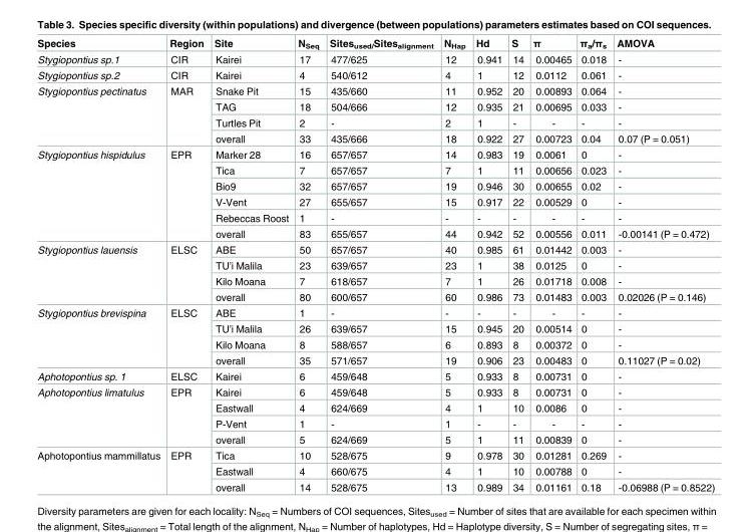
<table><thead><tr><td>Species</td><td>Region</td><td>Site</td><td>N<sub>Seq</sub></td><td>Sites<sub>used/</sub>Sites<sub>alignment</sub></td><td>N<sub>Hap</sub></td><td>Hd</td><td>S</td><td>π</td><td>π<sub>a</sub>/π<sub>s</sub></td><td>AMOVA</td></tr></thead><tbody><tr><td>Stygiopontius sp.1</td><td>CIR</td><td>Kairei</td><td>17</td><td>477/625</td><td>12</td><td>0.941</td><td>14</td><td>0.00465</td><td>0.018</td><td>-</td></tr><tr><td>Stygiopontius sp.2</td><td>CIR</td><td>Kairei</td><td>4</td><td>540/612</td><td>4</td><td>1</td><td>12</td><td>0.0112</td><td>0.061</td><td>-</td></tr><tr><td rowspan="4">Stygiopontius pectinatus</td><td rowspan="4">MAR</td><td>Snake Pit</td><td>15</td><td>435/660</td><td>11</td><td>0.952</td><td>20</td><td>0.00893</td><td>0.064</td><td>-</td></tr><tr><td>TAG</td><td>18</td><td>504/666</td><td>12</td><td>0.935</td><td>21</td><td>0.00695</td><td>0.033</td><td>-</td></tr><tr><td>Turtles Pit</td><td>2</td><td>-</td><td>2</td><td>1</td><td>-</td><td>-</td><td>-</td><td>-</td></tr><tr><td>overall</td><td>33</td><td>435/666</td><td>18</td><td>0.922</td><td>27</td><td>0.00723</td><td>0.04</td><td>0.07 (P = 0.051)</td></tr><tr><td rowspan="6">Stygiopontius hispidulus</td><td rowspan="6">EPR</td><td>Marker 28</td><td>16</td><td>657/657</td><td>14</td><td>0.983</td><td>19</td><td>0.0061</td><td>0</td><td>-</td></tr><tr><td>Tica</td><td>7</td><td>657/657</td><td>7</td><td>1</td><td>11</td><td>0.00656</td><td>0.023</td><td>-</td></tr><tr><td>Bio9</td><td>32</td><td>657/657</td><td>19</td><td>0.946</td><td>30</td><td>0.00655</td><td>0.02</td><td>-</td></tr><tr><td>V-Vent</td><td>27</td><td>655/657</td><td>15</td><td>0.917</td><td>22</td><td>0.00529</td><td>0</td><td>-</td></tr><tr><td>Rebeccas Roost</td><td>1</td><td>-</td><td>-</td><td>-</td><td>-</td><td>-</td><td>-</td><td>-</td></tr><tr><td>overall</td><td>83</td><td>655/657</td><td>44</td><td>0.942</td><td>52</td><td>0.00556</td><td>0.011</td><td>-0.00141 (P = 0.472)</td></tr><tr><td rowspan="4">Stygiopontius lauensis</td><td rowspan="4">ELSC</td><td>ABE</td><td>50</td><td>657/657</td><td>40</td><td>0.985</td><td>61</td><td>0.01442</td><td>0.003</td><td>-</td></tr><tr><td>TU’i Malila</td><td>23</td><td>639/657</td><td>23</td><td>1</td><td>38</td><td>0.0125</td><td>0</td><td>-</td></tr><tr><td>Kilo Moana</td><td>7</td><td>618/657</td><td>7</td><td>1</td><td>26</td><td>0.01718</td><td>0.008</td><td>-</td></tr><tr><td>overall</td><td>80</td><td>600/657</td><td>60</td><td>0.986</td><td>73</td><td>0.01483</td><td>0.003</td><td>0.02026 (P = 0.146)</td></tr><tr><td rowspan="4">Stygiopontius brevispina</td><td rowspan="4">ELSC</td><td>ABE</td><td>1</td><td>-</td><td>-</td><td>-</td><td>-</td><td>-</td><td>-</td><td>-</td></tr><tr><td>TU’i Malila</td><td>26</td><td>639/657</td><td>15</td><td>0.945</td><td>20</td><td>0.00514</td><td>0</td><td>-</td></tr><tr><td>Kilo Moana</td><td>8</td><td>588/657</td><td>6</td><td>0.893</td><td>8</td><td>0.00372</td><td>0</td><td>-</td></tr><tr><td>overall</td><td>35</td><td>571/657</td><td>19</td><td>0.906</td><td>23</td><td>0.00483</td><td>0</td><td>0.11027 (P = 0.02)</td></tr><tr><td>Aphotopontius sp. 1</td><td>ELSC</td><td>Kairei</td><td>6</td><td>459/648</td><td>5</td><td>0.933</td><td>8</td><td>0.00731</td><td>0</td><td>-</td></tr><tr><td rowspan="4">Aphotopontius limatulus</td><td rowspan="4">EPR</td><td>Kairei</td><td>6</td><td>459/648</td><td>5</td><td>0.933</td><td>8</td><td>0.00731</td><td>0</td><td>-</td></tr><tr><td>Eastwall</td><td>4</td><td>624/669</td><td>4</td><td>1</td><td>10</td><td>0.0086</td><td>0</td><td>-</td></tr><tr><td>P-Vent</td><td>1</td><td>-</td><td>1</td><td>-</td><td>-</td><td>-</td><td>-</td><td>-</td></tr><tr><td>overall</td><td>5</td><td>624/669</td><td>5</td><td>1</td><td>11</td><td>0.00839</td><td>0</td><td>-</td></tr><tr><td rowspan="3">Aphotopontius mammillatus</td><td rowspan="3">EPR</td><td>Tica</td><td>10</td><td>528/675</td><td>9</td><td>0.978</td><td>30</td><td>0.01281</td><td>0.269</td><td>-</td></tr><tr><td>Eastwall</td><td>4</td><td>660/675</td><td>4</td><td>1</td><td>10</td><td>0.00788</td><td>0</td><td>-</td></tr><tr><td>overall</td><td>14</td><td>528/675</td><td>13</td><td>0.989</td><td>34</td><td>0.01161</td><td>0.18</td><td>-0.06988 (P = 0.8522)</td></tr></tbody></table>